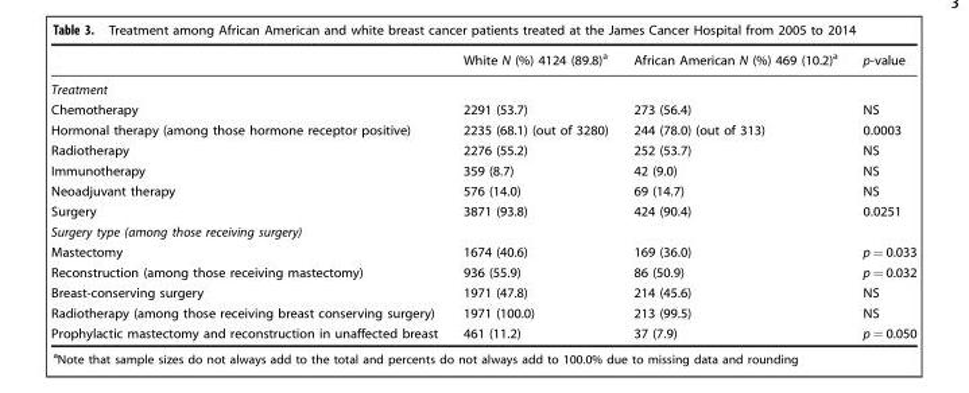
<table><thead><tr><td></td><td>White N (%) 4124 (89.8)<sup>a</sup></td><td>African American N (%) 469 (10.2)<sup>a</sup></td><td>p-value</td></tr></thead><tbody><tr><td colspan="4">Treatment</td></tr><tr><td>Chemotherapy</td><td>2291 (53.7)</td><td>273 (56.4)</td><td>NS</td></tr><tr><td>Hormonal therapy (among those hormone receptor positive)</td><td>2235 (68.1) (out of 3280)</td><td>244 (78.0) (out of 313)</td><td>0.0003</td></tr><tr><td>Radiotherapy</td><td>2276 (55.2)</td><td>252 (53.7)</td><td>NS</td></tr><tr><td>Immunotherapy</td><td>359 (8.7)</td><td>42 (9.0)</td><td>NS</td></tr><tr><td>Neoadjuvant therapy</td><td>576 (14.0)</td><td>69 (14.7)</td><td>NS</td></tr><tr><td>Surgery</td><td>3871 (93.8)</td><td>424 (90.4)</td><td>0.0251</td></tr><tr><td colspan="4">Surgery type (among those receiving surgery)</td></tr><tr><td>Mastectomy</td><td>1674 (40.6)</td><td>169 (36.0)</td><td>p = 0.033</td></tr><tr><td>Reconstruction (among those receiving mastectomy)</td><td>936 (55.9)</td><td>86 (50.9)</td><td>p = 0.032</td></tr><tr><td>Breast-conserving surgery</td><td>1971 (47.8)</td><td>214 (45.6)</td><td>NS</td></tr><tr><td>Radiotherapy (among those receiving breast conserving surgery)</td><td>1971 (100.0)</td><td>213 (99.5)</td><td>NS</td></tr><tr><td>Prophylactic mastectomy and reconstruction in unaffected breast</td><td>461 (11.2)</td><td>37 (7.9)</td><td>p = 0.050</td></tr></tbody></table>